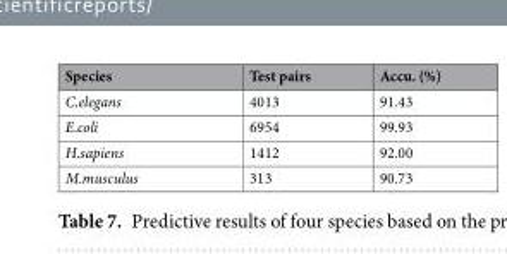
<table><thead><tr><td>Species</td><td>Test pairs</td><td>Accu. (%)</td></tr></thead><tbody><tr><td>C.elegans</td><td>4013</td><td>91.43</td></tr><tr><td>E.coli</td><td>6954</td><td>99.93</td></tr><tr><td>H.sapiens</td><td>1412</td><td>92.00</td></tr><tr><td>M.musculus</td><td>313</td><td>90.73</td></tr></tbody></table>